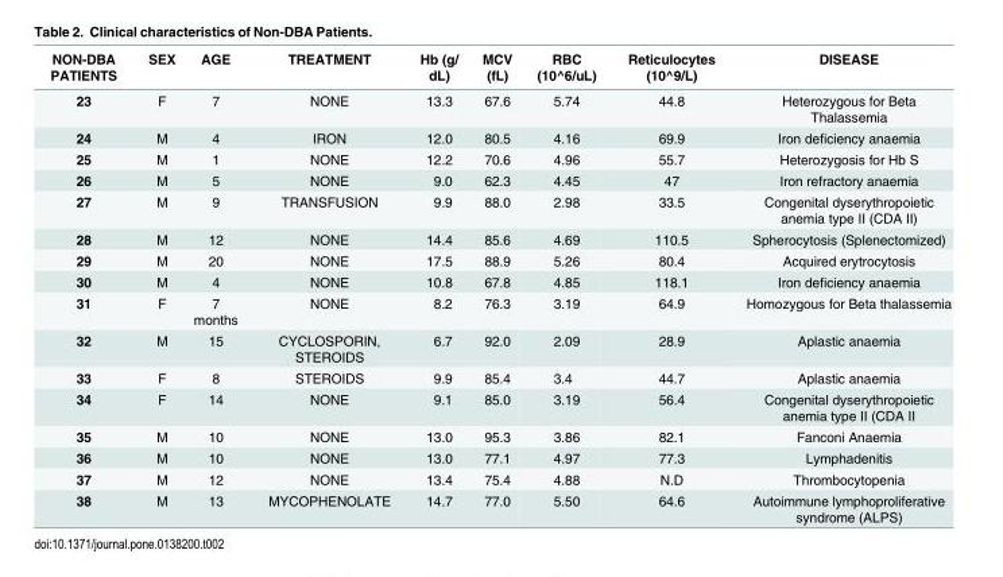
<table><thead><tr><td>NON-DBA PATIENTS</td><td>SEX</td><td>AGE</td><td>TREATMENT</td><td>Hb (g/ dL)</td><td>MCV (fL)</td><td>RBC (10^6/uL)</td><td>Reticulocytes (10^9/L)</td><td>DISEASE</td></tr></thead><tbody><tr><td>23</td><td>F</td><td>7</td><td>NONE</td><td>13.3</td><td>67.6</td><td>5.74</td><td>44.8</td><td>Heterozygous for Beta Thalassemia</td></tr><tr><td>24</td><td>M</td><td>4</td><td>IRON</td><td>12.0</td><td>80.5</td><td>4.16</td><td>69.9</td><td>Iron deficiency anaemia</td></tr><tr><td>25</td><td>M</td><td>1</td><td>NONE</td><td>12.2</td><td>70.6</td><td>4.96</td><td>55.7</td><td>Heterozygosis for Hb S</td></tr><tr><td>26</td><td>M</td><td>5</td><td>NONE</td><td>9.0</td><td>62.3</td><td>4.45</td><td>47</td><td>Iron refractory anaemia</td></tr><tr><td>27</td><td>M</td><td>9</td><td>TRANSFUSION</td><td>9.9</td><td>88.0</td><td>2.98</td><td>33.5</td><td>Congenital dyserythropoietic anemia type II (CDA II)</td></tr><tr><td>28</td><td>M</td><td>12</td><td>NONE</td><td>14.4</td><td>85.6</td><td>4.69</td><td>110.5</td><td>Spherocytosis (Splenectomized)</td></tr><tr><td>29</td><td>M</td><td>20</td><td>NONE</td><td>17.5</td><td>88.9</td><td>5.26</td><td>80.4</td><td>Acquired erytrocytosis</td></tr><tr><td>30</td><td>M</td><td>4</td><td>NONE</td><td>10.8</td><td>67.8</td><td>4.85</td><td>118.1</td><td>Iron deficiency anaemia</td></tr><tr><td>31</td><td>F</td><td>7 months</td><td>NONE</td><td>8.2</td><td>76.3</td><td>3.19</td><td>64.9</td><td>Homozygous for Beta thalassemia</td></tr><tr><td>32</td><td>M</td><td>15</td><td>CYCLOSPORIN, STEROIDS</td><td>6.7</td><td>92.0</td><td>2.09</td><td>28.9</td><td>Aplastic anaemia</td></tr><tr><td>33</td><td>F</td><td>8</td><td>STEROIDS</td><td>9.9</td><td>85.4</td><td>3.4</td><td>44.7</td><td>Aplastic anaemia</td></tr><tr><td>34</td><td>F</td><td>14</td><td>NONE</td><td>9.1</td><td>85.0</td><td>3.19</td><td>56.4</td><td>Congenital dyserythropoietic anemia type II (CDA II</td></tr><tr><td>35</td><td>M</td><td>10</td><td>NONE</td><td>13.0</td><td>95.3</td><td>3.86</td><td>82.1</td><td>Fanconi Anaemia</td></tr><tr><td>36</td><td>M</td><td>10</td><td>NONE</td><td>13.0</td><td>77.1</td><td>4.97</td><td>77.3</td><td>Lymphadenitis</td></tr><tr><td>37</td><td>M</td><td>12</td><td>NONE</td><td>13.4</td><td>75.4</td><td>4.88</td><td>N.D</td><td>Thrombocytopenia</td></tr><tr><td>38</td><td>M</td><td>13</td><td>MYCOPHENOLATE</td><td>14.7</td><td>77.0</td><td>5.50</td><td>64.6</td><td>Autoimmune lymphoproliferative syndrome (ALPS)</td></tr></tbody></table>